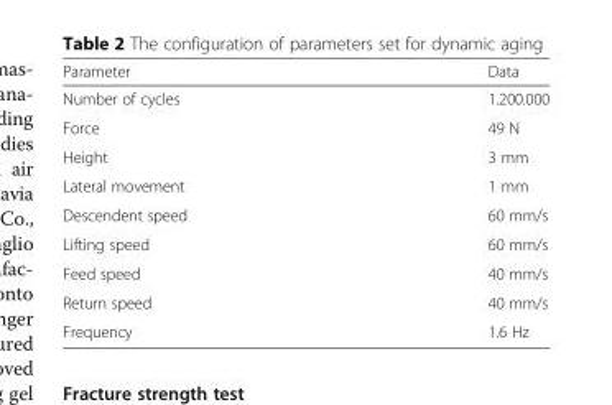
<table><thead><tr><td>Parameter</td><td>Data</td></tr></thead><tbody><tr><td>Number of cycles</td><td>1.200.000</td></tr><tr><td>Force</td><td>49 N</td></tr><tr><td>Height</td><td>3 mm</td></tr><tr><td>Lateral movement</td><td>1 mm</td></tr><tr><td>Descendent speed</td><td>60 mm/s</td></tr><tr><td>Lifting speed</td><td>60 mm/s</td></tr><tr><td>Feed speed</td><td>40 mm/s</td></tr><tr><td>Return speed</td><td>40 mm/s</td></tr><tr><td>Frequency</td><td>1.6 Hz</td></tr></tbody></table>